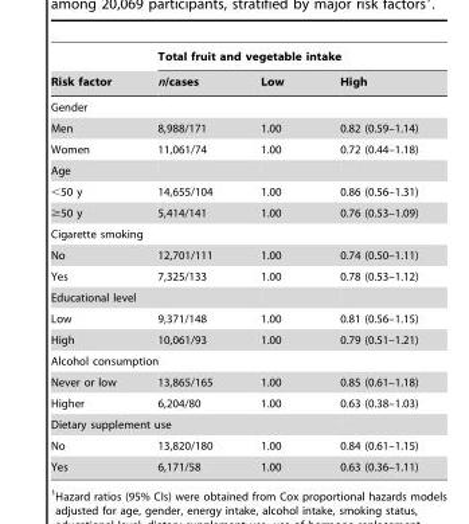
<table><thead><tr><td rowspan="2">Risk factor</td><td colspan="3">Total fruit and vegetable intake</td></tr><tr><td>n/cases</td><td>Low</td><td>High</td></tr></thead><tbody><tr><td colspan="4">Gender</td></tr><tr><td>Men</td><td>8,988/171</td><td>1.00</td><td>0.82 (0.59–1.14)</td></tr><tr><td>Women</td><td>11,061/74</td><td>1.00</td><td>0.72 (0.44–1.18)</td></tr><tr><td colspan="4">Age</td></tr><tr><td>&lt;50 y</td><td>14,655/104</td><td>1.00</td><td>0.86 (0.56–1.31)</td></tr><tr><td>≥50 y</td><td>5,414/141</td><td>1.00</td><td>0.76 (0.53–1.09)</td></tr><tr><td colspan="4">Cigarette smoking</td></tr><tr><td>No</td><td>12,701/111</td><td>1.00</td><td>0.74 (0.50–1.11)</td></tr><tr><td>Yes</td><td>7,325/133</td><td>1.00</td><td>0.78 (0.53–1.12)</td></tr><tr><td colspan="4">Educational level</td></tr><tr><td>Low</td><td>9,371/148</td><td>1.00</td><td>0.81 (0.56–1.15)</td></tr><tr><td>High</td><td>10,061/93</td><td>1.00</td><td>0.79 (0.51–1.21)</td></tr><tr><td colspan="4">Alcohol consumption</td></tr><tr><td>Never or low</td><td>13,865/165</td><td>1.00</td><td>0.85 (0.61–1.18)</td></tr><tr><td>Higher</td><td>6,204/80</td><td>1.00</td><td>0.63 (0.38–1.03)</td></tr><tr><td colspan="4">Dietary supplement use</td></tr><tr><td>No</td><td>13,820/180</td><td>1.00</td><td>0.84 (0.61–1.15)</td></tr><tr><td>Yes</td><td>6,171/58</td><td>1.00</td><td>0.63 (0.36–1.11)</td></tr></tbody></table>